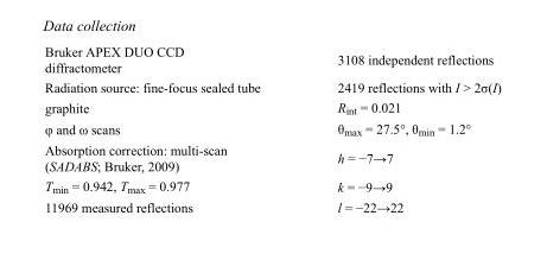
<table><tbody><tr><td>Bruker APEX DUO CCD diffractometer</td><td>3108 independent reflections</td></tr><tr><td>Radiation source: fine-focus sealed tube</td><td>2419 reflections with I &gt; 2σ(I)</td></tr><tr><td>graphite</td><td>R<sub>int</sub> = 0.021</td></tr><tr><td>φ and ω scans</td><td>θ<sub>max</sub> = 27.5°, θ<sub>min</sub> = 1.2°</td></tr><tr><td>Absorption correction: multi-scan (SADABS; Bruker, 2009)</td><td>h = −7→7</td></tr><tr><td>T<sub>min</sub> = 0.942, T<sub>max</sub> = 0.977</td><td>k = −9→9</td></tr><tr><td>11969 measured reflections</td><td>l = −22→22</td></tr></tbody></table>